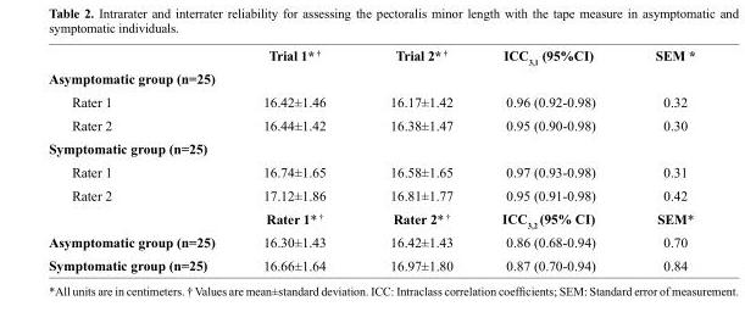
<table><thead><tr><td></td><td>Trial 1* <sup>†</sup></td><td>Trial 2* <sup>†</sup></td><td>ICC<sub>3,1</sub> (95%CI)</td><td>SEM *</td></tr></thead><tbody><tr><td colspan="5">Asymptomatic group (n=25)</td></tr><tr><td>Rater 1</td><td>16.42±1.46</td><td>16.17±1.42</td><td>0.96 (0.92-0.98)</td><td>0.32</td></tr><tr><td>Rater 2</td><td>16.44±1.42</td><td>16.38±1.47</td><td>0.95 (0.90-0.98)</td><td>0.30</td></tr><tr><td colspan="5">Symptomatic group (n=25)</td></tr><tr><td>Rater 1</td><td>16.74±1.65</td><td>16.58±1.65</td><td>0.97 (0.93-0.98)</td><td>0.31</td></tr><tr><td rowspan="2">Rater 2</td><td>17.12±1.86</td><td>16.81±1.77</td><td>0.95 (0.91-0.98)</td><td>0.42</td></tr><tr><td>Rater 1* <sup>†</sup></td><td>Rater 2* <sup>†</sup></td><td>ICC<sub>3,2</sub> (95% CI)</td><td>SEM*</td></tr><tr><td>Asymptomatic group (n=25)</td><td>16.30±1.43</td><td>16.42±1.43</td><td>0.86 (0.68-0.94)</td><td>0.70</td></tr><tr><td>Symptomatic group (n=25)</td><td>16.66±1.64</td><td>16.97±1.80</td><td>0.87 (0.70-0.94)</td><td>0.84</td></tr></tbody></table>